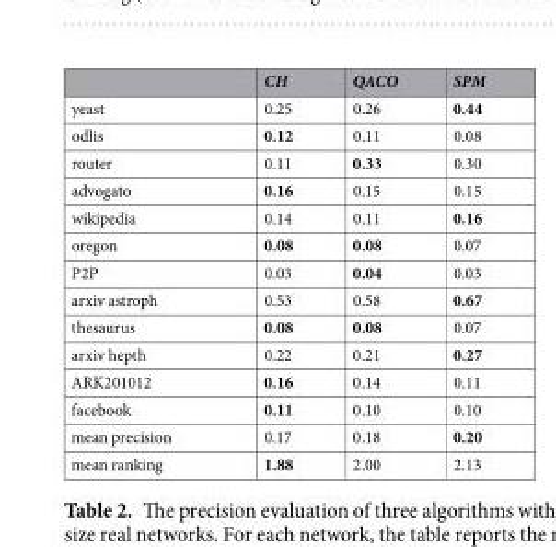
<table><thead><tr><td></td><td>CH</td><td>QACO</td><td>SPM</td></tr></thead><tbody><tr><td>yeast</td><td>0.25</td><td>0.26</td><td>0.44</td></tr><tr><td>odlis</td><td>0.12</td><td>0.11</td><td>0.08</td></tr><tr><td>router</td><td>0.11</td><td>0.33</td><td>0.30</td></tr><tr><td>advogato</td><td>0.16</td><td>0.15</td><td>0.15</td></tr><tr><td>wikipedia</td><td>0.14</td><td>0.11</td><td>0.16</td></tr><tr><td>oregon</td><td>0.08</td><td>0.08</td><td>0.07</td></tr><tr><td>P2P</td><td>0.03</td><td>0.04</td><td>0.03</td></tr><tr><td>arxiv astroph</td><td>0.53</td><td>0.58</td><td>0.67</td></tr><tr><td>thesaurus</td><td>0.08</td><td>0.08</td><td>0.07</td></tr><tr><td>arxiv hepth</td><td>0.22</td><td>0.21</td><td>0.27</td></tr><tr><td>ARK201012</td><td>0.16</td><td>0.14</td><td>0.11</td></tr><tr><td>facebook</td><td>0.11</td><td>0.10</td><td>0.10</td></tr><tr><td>mean precision</td><td>0.17</td><td>0.18</td><td>0.20</td></tr><tr><td>mean ranking</td><td>1.88</td><td>2.00</td><td>2.13</td></tr></tbody></table>